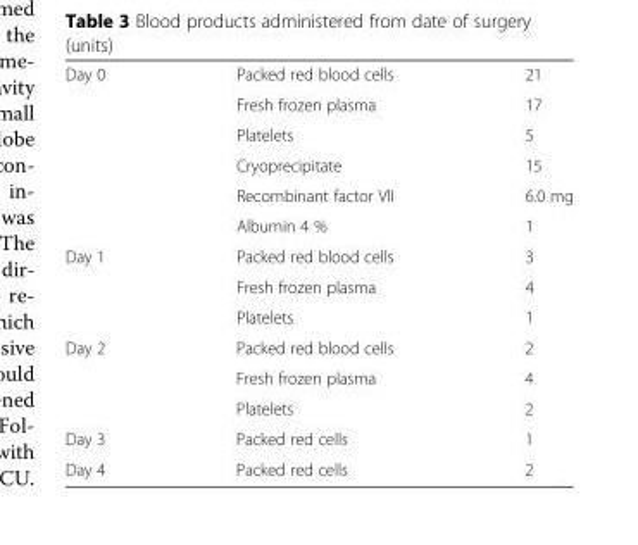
<table><tbody><tr><td rowspan="6">Day 0</td><td>Packed red blood cells</td><td>21</td></tr><tr><td>Fresh frozen plasma</td><td>17</td></tr><tr><td>Platelets</td><td>5</td></tr><tr><td>Cryoprecipitate</td><td>15</td></tr><tr><td>Recombinant factor VII</td><td>6.0 mg</td></tr><tr><td>Albumin 4 %</td><td>1</td></tr><tr><td rowspan="3">Day 1</td><td>Packed red blood cells</td><td>3</td></tr><tr><td>Fresh frozen plasma</td><td>4</td></tr><tr><td>Platelets</td><td>1</td></tr><tr><td rowspan="3">Day 2</td><td>Packed red blood cells</td><td>2</td></tr><tr><td>Fresh frozen plasma</td><td>4</td></tr><tr><td>Platelets</td><td>2</td></tr><tr><td>Day 3</td><td>Packed red cells</td><td>1</td></tr><tr><td>Day 4</td><td>Packed red cells</td><td>2</td></tr></tbody></table>